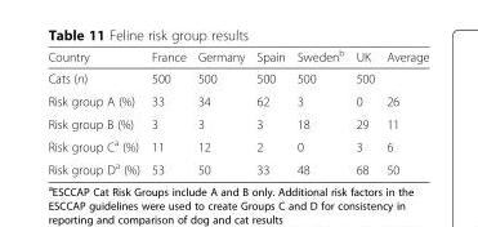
<table><thead><tr><td>Country</td><td>France</td><td>Germany</td><td>Spain</td><td>Sweden<sup>b</sup></td><td>UK</td><td>Average</td></tr></thead><tbody><tr><td>Cats (n)</td><td>500</td><td>500</td><td>500</td><td>500</td><td>500</td><td></td></tr><tr><td>Risk group A (%)</td><td>33</td><td>34</td><td>62</td><td>3</td><td>0</td><td>26</td></tr><tr><td>Risk group B (%)</td><td>3</td><td>3</td><td>3</td><td>18</td><td>29</td><td>11</td></tr><tr><td>Risk group C<sup>a</sup> (%)</td><td>11</td><td>12</td><td>2</td><td>0</td><td>3</td><td>6</td></tr><tr><td>Risk group D<sup>a</sup> (%)</td><td>53</td><td>50</td><td>33</td><td>48</td><td>68</td><td>50</td></tr></tbody></table>